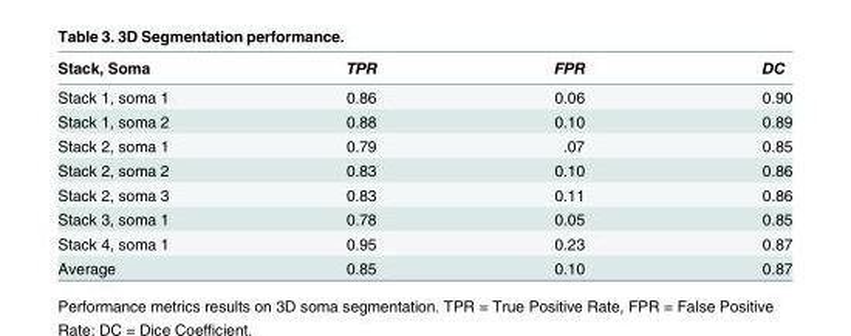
<table><thead><tr><td>Stack, Soma</td><td>TPR</td><td>FPR</td><td>DC</td></tr></thead><tbody><tr><td>Stack 1, soma 1</td><td>0.86</td><td>0.06</td><td>0.90</td></tr><tr><td>Stack 1, soma 2</td><td>0.88</td><td>0.10</td><td>0.89</td></tr><tr><td>Stack 2, soma 1</td><td>0.79</td><td>.07</td><td>0.85</td></tr><tr><td>Stack 2, soma 2</td><td>0.83</td><td>0.10</td><td>0.86</td></tr><tr><td>Stack 2, soma 3</td><td>0.83</td><td>0.11</td><td>0.86</td></tr><tr><td>Stack 3, soma 1</td><td>0.78</td><td>0.05</td><td>0.85</td></tr><tr><td>Stack 4, soma 1</td><td>0.95</td><td>0.23</td><td>0.87</td></tr><tr><td>Average</td><td>0.85</td><td>0.10</td><td>0.87</td></tr></tbody></table>